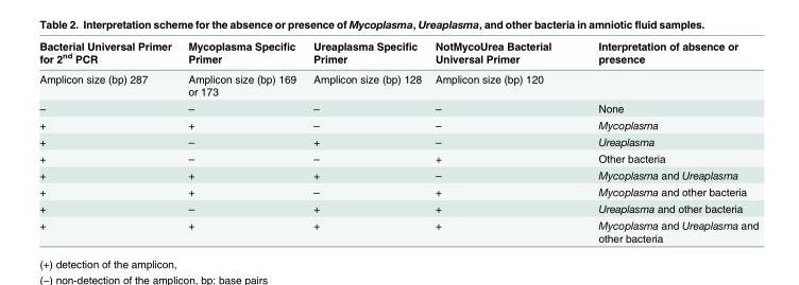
<table><thead><tr><td>Bacterial Universal Primer for 2<sup>nd</sup> PCR</td><td>Mycoplasma Specific Primer</td><td>Ureaplasma Specific Primer</td><td>NotMycoUrea Bacterial Universal Primer</td><td>Interpretation of absence or presence</td></tr></thead><tbody><tr><td>Amplicon size (bp) 287</td><td>Amplicon size (bp) 169 or 173</td><td>Amplicon size (bp) 128</td><td>Amplicon size (bp) 120</td><td></td></tr><tr><td>–</td><td>–</td><td>–</td><td>–</td><td>None</td></tr><tr><td>+</td><td>+</td><td>–</td><td>–</td><td>Mycoplasma</td></tr><tr><td>+</td><td>–</td><td>+</td><td>–</td><td>Ureaplasma</td></tr><tr><td>+</td><td>–</td><td>–</td><td>+</td><td>Other bacteria</td></tr><tr><td>+</td><td>+</td><td>+</td><td>–</td><td>Mycoplasma and Ureaplasma</td></tr><tr><td>+</td><td>+</td><td>–</td><td>+</td><td>Mycoplasma and other bacteria</td></tr><tr><td>+</td><td>–</td><td>+</td><td>+</td><td>Ureaplasma and other bacteria</td></tr><tr><td>+</td><td>+</td><td>+</td><td>+</td><td>Mycoplasma and Ureaplasma and other bacteria</td></tr></tbody></table>